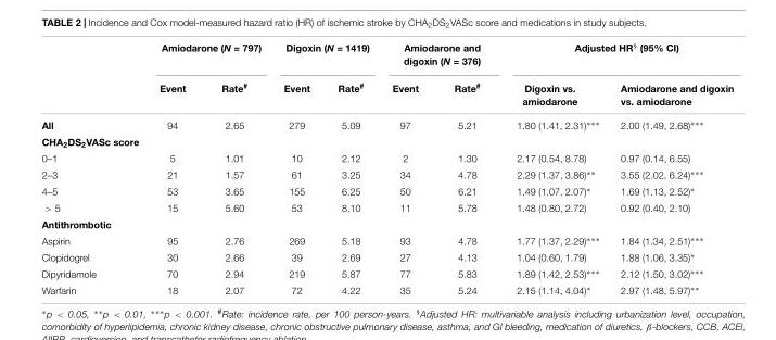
<table><thead><tr><td rowspan="2"></td><td colspan="2">Amiodarone (N = 797)</td><td colspan="2">Digoxin (N = 1419)</td><td colspan="2">Amiodarone and digoxin (N = 376)</td><td colspan="2">Adjusted HR<sup>§</sup> (95% CI)</td></tr><tr><td>Event</td><td>Rate<sup>#</sup></td><td>Event</td><td>Rate<sup>#</sup></td><td>Event</td><td>Rate<sup>#</sup></td><td>Digoxin vs. amiodarone</td><td>Amiodarone and digoxin vs. amiodarone</td></tr></thead><tbody><tr><td>All</td><td>94</td><td>2.65</td><td>279</td><td>5.09</td><td>97</td><td>5.21</td><td>1.80 (1.41, 2.31)∗∗∗</td><td>2.00 (1.49, 2.68)∗∗∗</td></tr><tr><td colspan="9">CHA<sub>2</sub>DS<sub>2</sub>VASc score</td></tr><tr><td>0–1</td><td>5</td><td>1.01</td><td>10</td><td>2.12</td><td>2</td><td>1.30</td><td>2.17 (0.54, 8.78)</td><td>0.97 (0.14, 6.55)</td></tr><tr><td>2–3</td><td>21</td><td>1.57</td><td>61</td><td>3.25</td><td>34</td><td>4.78</td><td>2.29 (1.37, 3.86)∗∗</td><td>3.55 (2.02, 6.24)∗∗∗</td></tr><tr><td>4–5</td><td>53</td><td>3.65</td><td>155</td><td>6.25</td><td>50</td><td>6.21</td><td>1.49 (1.07, 2.07)∗</td><td>1.69 (1.13, 2.52)∗</td></tr><tr><td>&gt; 5</td><td>15</td><td>5.60</td><td>53</td><td>8.10</td><td>11</td><td>5.78</td><td>1.48 (0.80, 2.72)</td><td>0.92 (0.40, 2.10)</td></tr><tr><td colspan="9">Antithrombotic</td></tr><tr><td>Aspirin</td><td>95</td><td>2.76</td><td>269</td><td>5.18</td><td>93</td><td>4.78</td><td>1.77 (1.37, 2.29)∗∗∗</td><td>1.84 (1.34, 2.51)∗∗∗</td></tr><tr><td>Clopidogrel</td><td>30</td><td>2.66</td><td>39</td><td>2.69</td><td>27</td><td>4.13</td><td>1.04 (0.60, 1.79)</td><td>1.88 (1.06, 3.35)∗</td></tr><tr><td>Dipyridamole</td><td>70</td><td>2.94</td><td>219</td><td>5.87</td><td>77</td><td>5.83</td><td>1.89 (1.42, 2.53)∗∗∗</td><td>2.12 (1.50, 3.02)∗∗∗</td></tr><tr><td>Warfarin</td><td>18</td><td>2.07</td><td>72</td><td>4.22</td><td>35</td><td>5.24</td><td>2.15 (1.14, 4.04)∗</td><td>2.97 (1.48, 5.97)∗∗</td></tr></tbody></table>